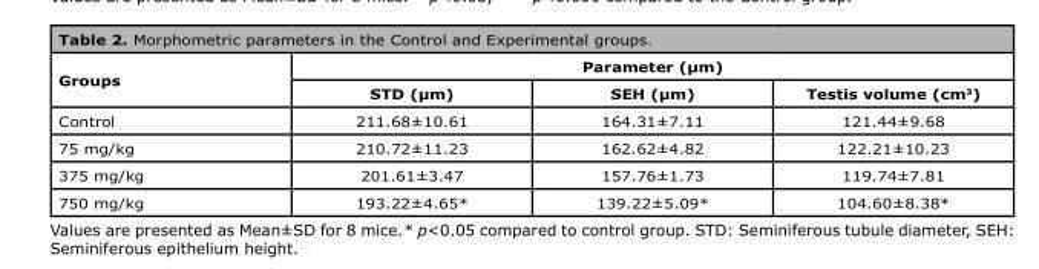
<table><thead><tr><td rowspan="2">Groups</td><td colspan="3">Parameter (µm)</td></tr><tr><td>STD (µm)</td><td>SEH (µm)</td><td>Testis volume (cm<sup>3</sup>)</td></tr></thead><tbody><tr><td>Control</td><td>211.68±10.61</td><td>164.31±7.11</td><td>121.44±9.68</td></tr><tr><td>75 mg/kg</td><td>210.72±11.23</td><td>162.62±4.82</td><td>122.21±10.23</td></tr><tr><td>375 mg/kg</td><td>201.61±3.47</td><td>157.76±1.73</td><td>119.74±7.81</td></tr><tr><td>750 mg/kg</td><td>193.22±4.65*</td><td>139.22±5.09*</td><td>104.60±8.38*</td></tr></tbody></table>